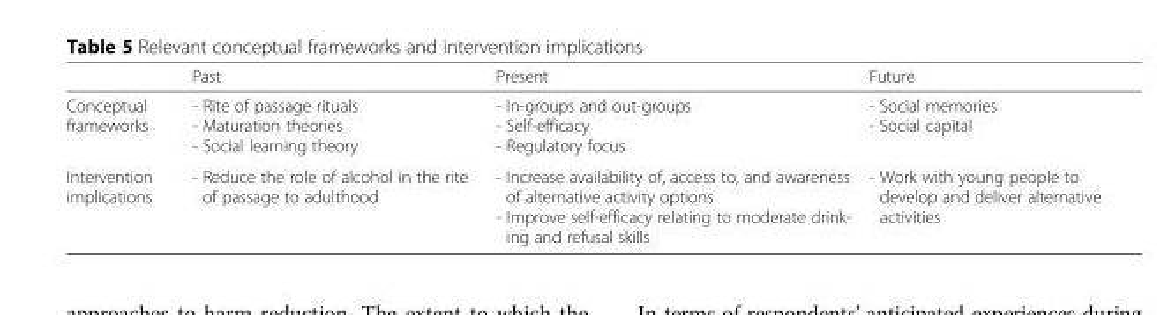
<table><thead><tr><td></td><td>Past</td><td>Present</td><td>Future</td></tr></thead><tbody><tr><td>Conceptual frameworks</td><td>- Rite of passage rituals - Maturation theories - Social learning theory</td><td>- In-groups and out-groups - Self-efficacy - Regulatory focus</td><td>- Social memories - Social capital</td></tr><tr><td>Intervention implications</td><td>- Reduce the role of alcohol in the rite of passage to adulthood</td><td>- Increase availability of, access to, and awareness of alternative activity options - Improve self-efficacy relating to moderate drink- ing and refusal skills</td><td>- Work with young people to develop and deliver alternative activities</td></tr></tbody></table>